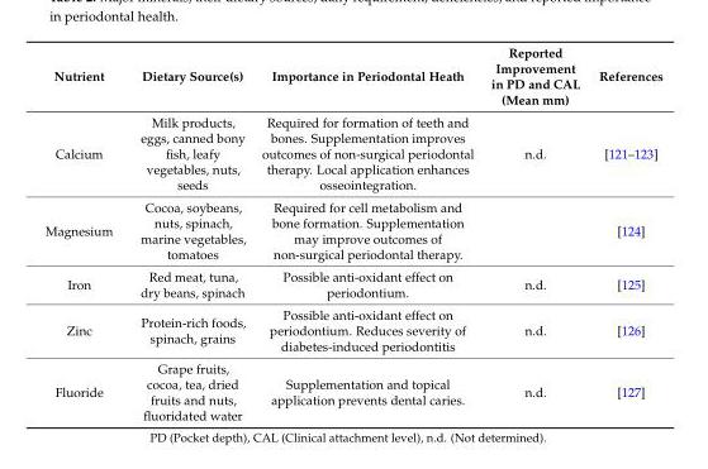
<table><thead><tr><td>Nutrient</td><td>Dietary Source(s)</td><td>Importance in Periodontal Heath</td><td>Reported Improvement in PD and CAL (Mean mm)</td><td>References</td></tr></thead><tbody><tr><td>Calcium</td><td>Milk products, eggs, canned bony fish, leafy vegetables, nuts, seeds</td><td>Required for formation of teeth and bones. Supplementation improves outcomes of non-surgical periodontal therapy. Local application enhances osseointegration.</td><td>n.d.</td><td>[121–123]</td></tr><tr><td>Magnesium</td><td>Cocoa, soybeans, nuts, spinach, marine vegetables, tomatoes</td><td>Required for cell metabolism and bone formation. Supplementation may improve outcomes of non-surgical periodontal therapy.</td><td></td><td>[124]</td></tr><tr><td>Iron</td><td>Red meat, tuna, dry beans, spinach</td><td>Possible anti-oxidant effect on periodontium.</td><td>n.d.</td><td>[125]</td></tr><tr><td>Zinc</td><td>Protein-rich foods, spinach, grains</td><td>Possible anti-oxidant effect on periodontium. Reduces severity of diabetes-induced periodontitis</td><td>n.d.</td><td>[126]</td></tr><tr><td>Fluoride</td><td>Grape fruits, cocoa, tea, dried fruits and nuts, fluoridated water</td><td>Supplementation and topical application prevents dental caries.</td><td>n.d.</td><td>[127]</td></tr></tbody></table>